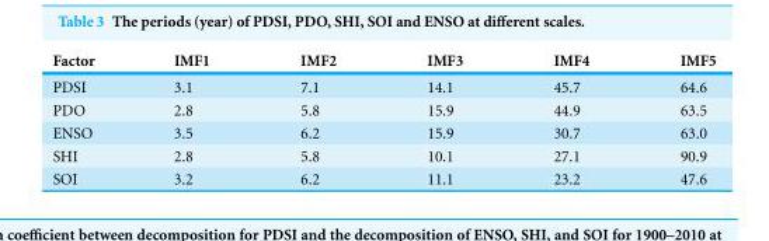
<table><thead><tr><td>Factor</td><td>IMF1</td><td>IMF2</td><td>IMF3</td><td>IMF4</td><td>IMF5</td></tr></thead><tbody><tr><td>PDSI</td><td>3.1</td><td>7.1</td><td>14.1</td><td>45.7</td><td>64.6</td></tr><tr><td>PDO</td><td>2.8</td><td>5.8</td><td>15.9</td><td>44.9</td><td>63.5</td></tr><tr><td>ENSO</td><td>3.5</td><td>6.2</td><td>15.9</td><td>30.7</td><td>63.0</td></tr><tr><td>SHI</td><td>2.8</td><td>5.8</td><td>10.1</td><td>27.1</td><td>90.9</td></tr><tr><td>SOI</td><td>3.2</td><td>6.2</td><td>11.1</td><td>23.2</td><td>47.6</td></tr></tbody></table>